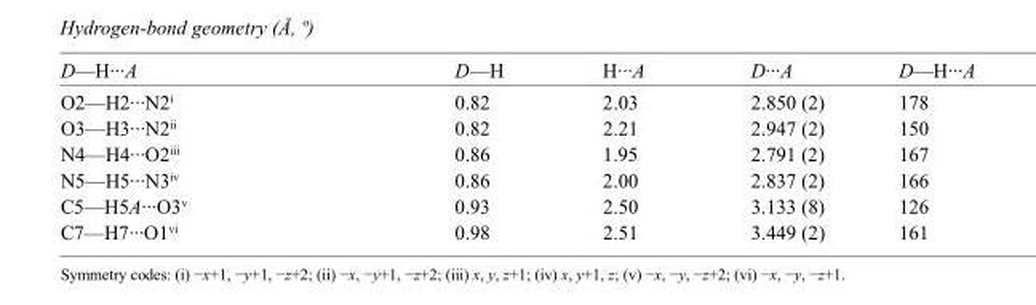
<table><tbody><tr><td>D—H···A</td><td>D—H</td><td>H···A</td><td>D···A</td><td>D—H···A</td></tr><tr><td>O2—H2···N2<sup>i</sup></td><td>0.82</td><td>2.03</td><td>2.850 (2)</td><td>178</td></tr><tr><td>O3—H3···N2<sup>ii</sup></td><td>0.82</td><td>2.21</td><td>2.947 (2)</td><td>150</td></tr><tr><td>N4—H4···O2<sup>iii</sup></td><td>0.86</td><td>1.95</td><td>2.791 (2)</td><td>167</td></tr><tr><td>N5—H5···N3<sup>iv</sup></td><td>0.86</td><td>2.00</td><td>2.837 (2)</td><td>166</td></tr><tr><td>C5—H5A···O3<sup>v</sup></td><td>0.93</td><td>2.50</td><td>3.133 (8)</td><td>126</td></tr><tr><td>C7—H7···O1<sup>vi</sup></td><td>0.98</td><td>2.51</td><td>3.449 (2)</td><td>161</td></tr></tbody></table>